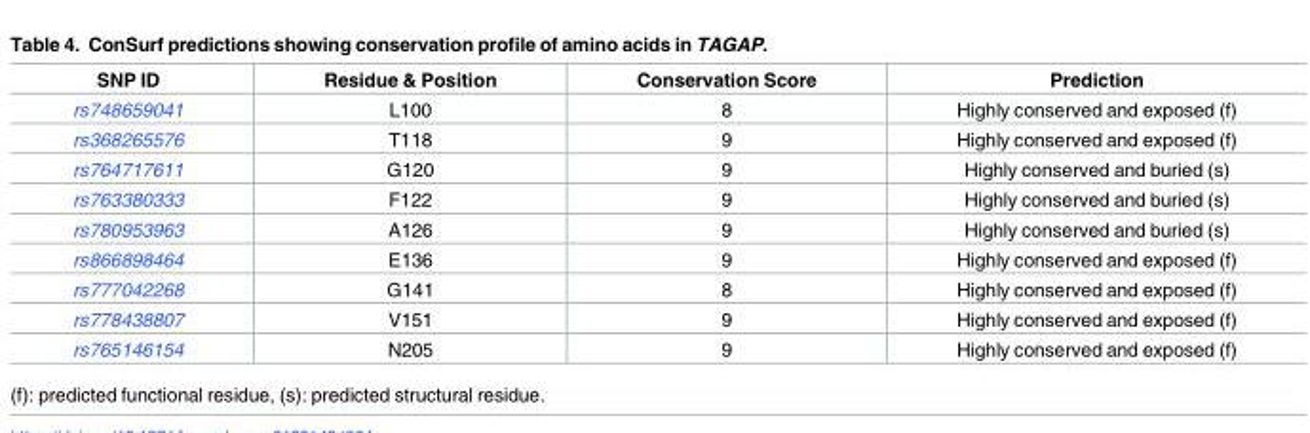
<table><thead><tr><td>SNP ID</td><td>Residue &amp; Position</td><td>Conservation Score</td><td>Prediction</td></tr></thead><tbody><tr><td>rs748659041</td><td>L100</td><td>8</td><td>Highly conserved and exposed (f)</td></tr><tr><td>rs368265576</td><td>T118</td><td>9</td><td>Highly conserved and exposed (f)</td></tr><tr><td>rs764717611</td><td>G120</td><td>9</td><td>Highly conserved and buried (s)</td></tr><tr><td>rs763380333</td><td>F122</td><td>9</td><td>Highly conserved and buried (s)</td></tr><tr><td>rs780953963</td><td>A126</td><td>9</td><td>Highly conserved and buried (s)</td></tr><tr><td>rs866898464</td><td>E136</td><td>9</td><td>Highly conserved and exposed (f)</td></tr><tr><td>rs777042268</td><td>G141</td><td>8</td><td>Highly conserved and exposed (f)</td></tr><tr><td>rs778438807</td><td>V151</td><td>9</td><td>Highly conserved and exposed (f)</td></tr><tr><td>rs765146154</td><td>N205</td><td>9</td><td>Highly conserved and exposed (f)</td></tr></tbody></table>